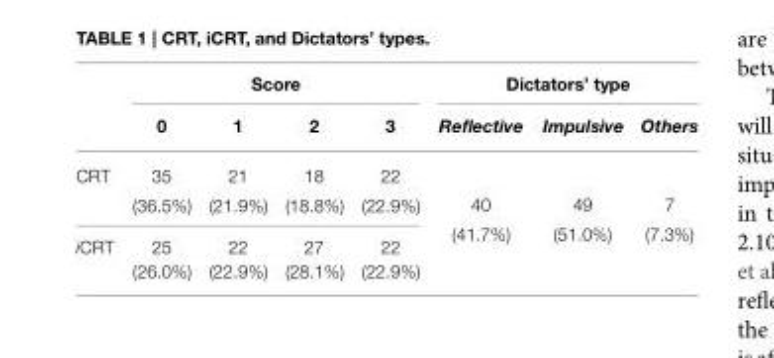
<table><thead><tr><td rowspan="2"></td><td colspan="4">Score</td><td colspan="3">Dictators’ type</td></tr><tr><td>0</td><td>1</td><td>2</td><td>3</td><td>Reflective</td><td>Impulsive</td><td>Others</td></tr></thead><tbody><tr><td rowspan="2">CRT</td><td>35</td><td>21</td><td>18</td><td>22</td><td rowspan="4">40 (41.7%)</td><td rowspan="4">49 (51.0%)</td><td rowspan="4">7 (7.3%)</td></tr><tr><td>(36.5%)</td><td>(21.9%)</td><td>(18.8%)</td><td>(22.9%)</td></tr><tr><td rowspan="2">iCRT</td><td>25</td><td>22</td><td>27</td><td>22</td></tr><tr><td>(26.0%)</td><td>(22.9%)</td><td>(28.1%)</td><td>(22.9%)</td></tr></tbody></table>